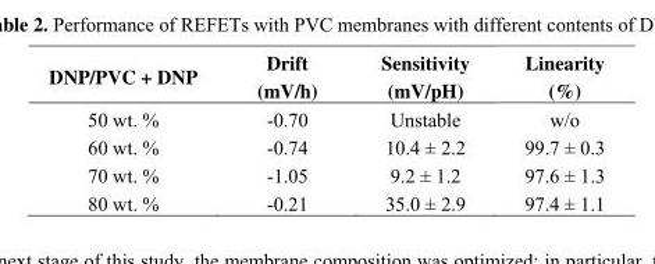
<table><thead><tr><td>DNP/PVC + DNP</td><td>Drift (mV/h)</td><td>Sensitivity (mV/pH)</td><td>Linearity (%)</td></tr></thead><tbody><tr><td>50 wt. %</td><td>-0.70</td><td>Unstable</td><td>w/o</td></tr><tr><td>60 wt. %</td><td>-0.74</td><td>10.4 ± 2.2</td><td>99.7 ± 0.3</td></tr><tr><td>70 wt. %</td><td>-1.05</td><td>9.2 ± 1.2</td><td>97.6 ± 1.3</td></tr><tr><td>80 wt. %</td><td>-0.21</td><td>35.0 ± 2.9</td><td>97.4 ± 1.1</td></tr></tbody></table>